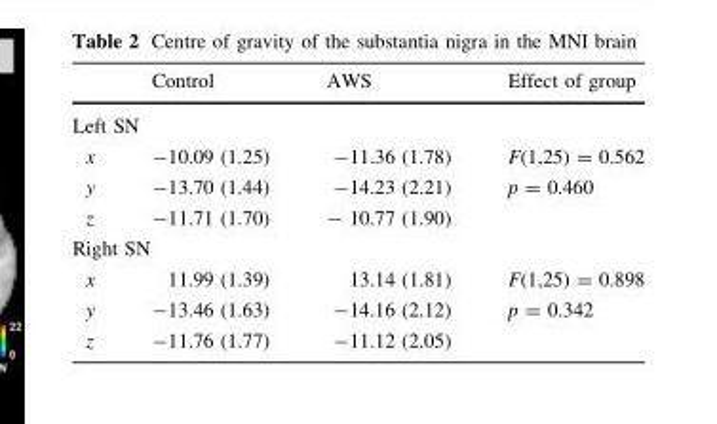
<table><thead><tr><td></td><td>Control</td><td>AWS</td><td>Effect of group</td></tr></thead><tbody><tr><td colspan="4">Left SN</td></tr><tr><td>x</td><td>-10.09 (1.25)</td><td>-11.36 (1.78)</td><td rowspan="3">F(1,25) = 0.562 p = 0.460</td></tr><tr><td>y</td><td>-13.70 (1.44)</td><td>-14.23 (2.21)</td></tr><tr><td>z</td><td>-11.71 (1.70)</td><td>- 10.77 (1.90)</td></tr><tr><td colspan="4">Right SN</td></tr><tr><td>x</td><td>11.99 (1.39)</td><td>13.14 (1.81)</td><td rowspan="3">F(1,25) = 0.898 p = 0.342</td></tr><tr><td>y</td><td>-13.46 (1.63)</td><td>-14.16 (2.12)</td></tr><tr><td>z</td><td>-11.76 (1.77)</td><td>-11.12 (2.05)</td></tr></tbody></table>